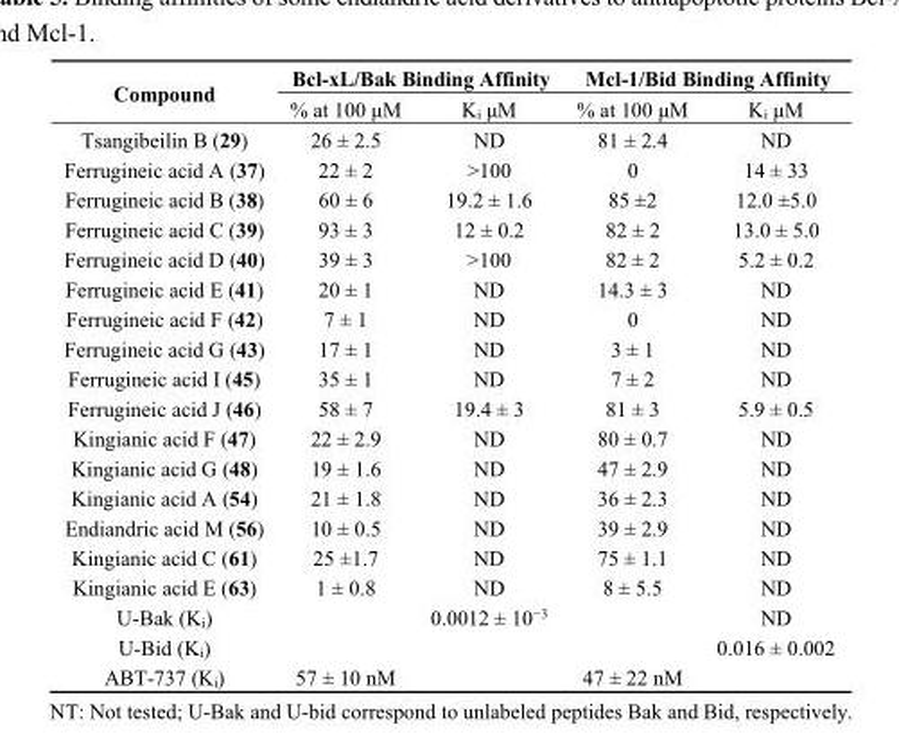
<table><thead><tr><td rowspan="2">Compound</td><td colspan="2">Bcl-xL/Bak Binding Affinity</td><td colspan="2">Mcl-1/Bid Binding Affinity</td></tr><tr><td>% at 100 μM</td><td>K<sub>i</sub> μM</td><td>% at 100 μM</td><td>K<sub>i</sub> μM</td></tr></thead><tbody><tr><td>Tsangibeilin B (29)</td><td>26 ± 2.5</td><td>ND</td><td>81 ± 2.4</td><td>ND</td></tr><tr><td>Ferrugineic acid A (37)</td><td>22 ± 2</td><td>&gt;100</td><td>0</td><td>14 ± 33</td></tr><tr><td>Ferrugineic acid B (38)</td><td>60 ± 6</td><td>19.2 ± 1.6</td><td>85 ±2</td><td>12.0 ±5.0</td></tr><tr><td>Ferrugineic acid C (39)</td><td>93 ± 3</td><td>12 ± 0.2</td><td>82 ± 2</td><td>13.0 ± 5.0</td></tr><tr><td>Ferrugineic acid D (40)</td><td>39 ± 3</td><td>&gt;100</td><td>82 ± 2</td><td>5.2 ± 0.2</td></tr><tr><td>Ferrugineic acid E (41)</td><td>20 ± 1</td><td>ND</td><td>14.3 ± 3</td><td>ND</td></tr><tr><td>Ferrugineic acid F (42)</td><td>7 ± 1</td><td>ND</td><td>0</td><td>ND</td></tr><tr><td>Ferrugineic acid G (43)</td><td>17 ± 1</td><td>ND</td><td>3 ± 1</td><td>ND</td></tr><tr><td>Ferrugineic acid I (45)</td><td>35 ± 1</td><td>ND</td><td>7 ± 2</td><td>ND</td></tr><tr><td>Ferrugineic acid J (46)</td><td>58 ± 7</td><td>19.4 ± 3</td><td>81 ± 3</td><td>5.9 ± 0.5</td></tr><tr><td>Kingianic acid F (47)</td><td>22 ± 2.9</td><td>ND</td><td>80 ± 0.7</td><td>ND</td></tr><tr><td>Kingianic acid G (48)</td><td>19 ± 1.6</td><td>ND</td><td>47 ± 2.9</td><td>ND</td></tr><tr><td>Kingianic acid A (54)</td><td>21 ± 1.8</td><td>ND</td><td>36 ± 2.3</td><td>ND</td></tr><tr><td>Endiandric acid M (56)</td><td>10 ± 0.5</td><td>ND</td><td>39 ± 2.9</td><td>ND</td></tr><tr><td>Kingianic acid C (61)</td><td>25 ±1.7</td><td>ND</td><td>75 ± 1.1</td><td>ND</td></tr><tr><td>Kingianic acid E (63)</td><td>1 ± 0.8</td><td>ND</td><td>8 ± 5.5</td><td>ND</td></tr><tr><td>U-Bak (K<sub>i</sub>)</td><td></td><td>0.0012 ± 10<sup>−3</sup></td><td></td><td>ND</td></tr><tr><td>U-Bid (K<sub>i</sub>)</td><td></td><td></td><td></td><td>0.016 ± 0.002</td></tr><tr><td>ABT-737 (K<sub>i</sub>)</td><td>57 ± 10 nM</td><td></td><td>47 ± 22 nM</td><td></td></tr></tbody></table>